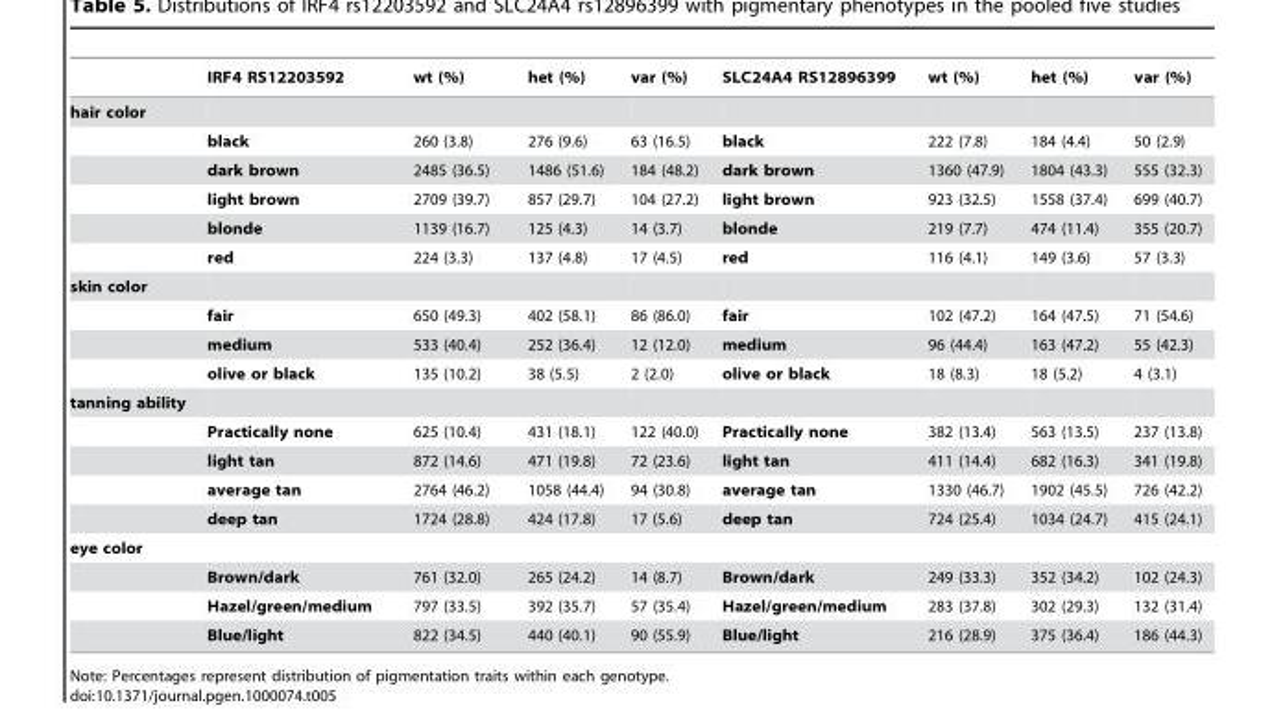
<table><thead><tr><td></td><td>IRF4 RS12203592</td><td>wt (%)</td><td>het (%)</td><td>var (%)</td><td>SLC24A4 RS12896399</td><td>wt (%)</td><td>het (%)</td><td>var (%)</td></tr></thead><tbody><tr><td colspan="9">hair color</td></tr><tr><td></td><td>black</td><td>260 (3.8)</td><td>276 (9.6)</td><td>63 (16.5)</td><td>black</td><td>222 (7.8)</td><td>184 (4.4)</td><td>50 (2.9)</td></tr><tr><td></td><td>dark brown</td><td>2485 (36.5)</td><td>1486 (51.6)</td><td>184 (48.2)</td><td>dark brown</td><td>1360 (47.9)</td><td>1804 (43.3)</td><td>555 (32.3)</td></tr><tr><td></td><td>light brown</td><td>2709 (39.7)</td><td>857 (29.7)</td><td>104 (27.2)</td><td>light brown</td><td>923 (32.5)</td><td>1558 (37.4)</td><td>699 (40.7)</td></tr><tr><td></td><td>blonde</td><td>1139 (16.7)</td><td>125 (4.3)</td><td>14 (3.7)</td><td>blonde</td><td>219 (7.7)</td><td>474 (11.4)</td><td>355 (20.7)</td></tr><tr><td></td><td>red</td><td>224 (3.3)</td><td>137 (4.8)</td><td>17 (4.5)</td><td>red</td><td>116 (4.1)</td><td>149 (3.6)</td><td>57 (3.3)</td></tr><tr><td colspan="9">skin color</td></tr><tr><td></td><td>fair</td><td>650 (49.3)</td><td>402 (58.1)</td><td>86 (86.0)</td><td>fair</td><td>102 (47.2)</td><td>164 (47.5)</td><td>71 (54.6)</td></tr><tr><td></td><td>medium</td><td>533 (40.4)</td><td>252 (36.4)</td><td>12 (12.0)</td><td>medium</td><td>96 (44.4)</td><td>163 (47.2)</td><td>55 (42.3)</td></tr><tr><td></td><td>olive or black</td><td>135 (10.2)</td><td>38 (5.5)</td><td>2 (2.0)</td><td>olive or black</td><td>18 (8.3)</td><td>18 (5.2)</td><td>4 (3.1)</td></tr><tr><td colspan="9">tanning ability</td></tr><tr><td></td><td>Practically none</td><td>625 (10.4)</td><td>431 (18.1)</td><td>122 (40.0)</td><td>Practically none</td><td>382 (13.4)</td><td>563 (13.5)</td><td>237 (13.8)</td></tr><tr><td></td><td>light tan</td><td>872 (14.6)</td><td>471 (19.8)</td><td>72 (23.6)</td><td>light tan</td><td>411 (14.4)</td><td>682 (16.3)</td><td>341 (19.8)</td></tr><tr><td></td><td>average tan</td><td>2764 (46.2)</td><td>1058 (44.4)</td><td>94 (30.8)</td><td>average tan</td><td>1330 (46.7)</td><td>1902 (45.5)</td><td>726 (42.2)</td></tr><tr><td></td><td>deep tan</td><td>1724 (28.8)</td><td>424 (17.8)</td><td>17 (5.6)</td><td>deep tan</td><td>724 (25.4)</td><td>1034 (24.7)</td><td>415 (24.1)</td></tr><tr><td colspan="9">eye color</td></tr><tr><td></td><td>Brown/dark</td><td>761 (32.0)</td><td>265 (24.2)</td><td>14 (8.7)</td><td>Brown/dark</td><td>249 (33.3)</td><td>352 (34.2)</td><td>102 (24.3)</td></tr><tr><td></td><td>Hazel/green/medium</td><td>797 (33.5)</td><td>392 (35.7)</td><td>57 (35.4)</td><td>Hazel/green/medium</td><td>283 (37.8)</td><td>302 (29.3)</td><td>132 (31.4)</td></tr><tr><td></td><td>Blue/light</td><td>822 (34.5)</td><td>440 (40.1)</td><td>90 (55.9)</td><td>Blue/light</td><td>216 (28.9)</td><td>375 (36.4)</td><td>186 (44.3)</td></tr></tbody></table>